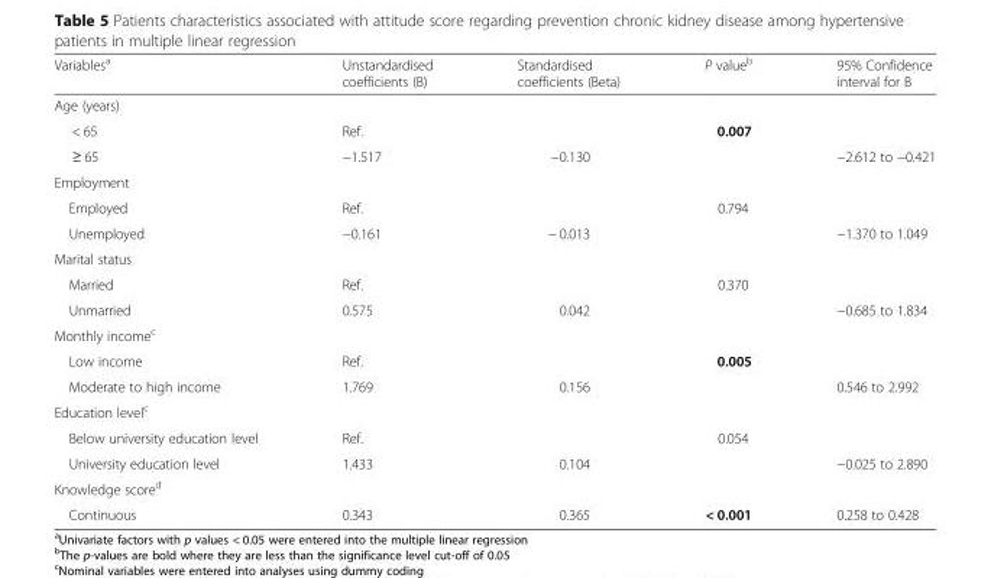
<table><thead><tr><td>Variables<sup>a</sup></td><td>Unstandardised coefficients (B)</td><td>Standardised coefficients (Beta)</td><td>P value<sup>b</sup></td><td>95% Confidence interval for B</td></tr></thead><tbody><tr><td colspan="5">Age (years)</td></tr><tr><td>&lt; 65</td><td>Ref.</td><td></td><td>0.007</td><td></td></tr><tr><td>≥ 65</td><td>−1.517</td><td>−0.130</td><td></td><td>−2.612 to −0.421</td></tr><tr><td colspan="5">Employment</td></tr><tr><td>Employed</td><td>Ref.</td><td></td><td>0.794</td><td></td></tr><tr><td>Unemployed</td><td>−0.161</td><td>− 0.013</td><td></td><td>−1.370 to 1.049</td></tr><tr><td colspan="5">Marital status</td></tr><tr><td>Married</td><td>Ref.</td><td></td><td>0.370</td><td></td></tr><tr><td>Unmarried</td><td>0.575</td><td>0.042</td><td></td><td>−0.685 to 1.834</td></tr><tr><td colspan="5">Monthly income<sup>c</sup></td></tr><tr><td>Low income</td><td>Ref.</td><td></td><td>0.005</td><td></td></tr><tr><td>Moderate to high income</td><td>1.769</td><td>0.156</td><td></td><td>0.546 to 2.992</td></tr><tr><td colspan="5">Education level<sup>c</sup></td></tr><tr><td>Below university education level</td><td>Ref.</td><td></td><td>0.054</td><td></td></tr><tr><td>University education level</td><td>1.433</td><td>0.104</td><td></td><td>−0.025 to 2.890</td></tr><tr><td colspan="5">Knowledge score<sup>d</sup></td></tr><tr><td>Continuous</td><td>0.343</td><td>0.365</td><td>&lt; 0.001</td><td>0.258 to 0.428</td></tr></tbody></table>